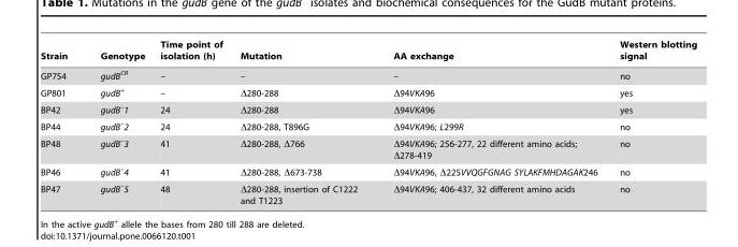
<table><thead><tr><td>Strain</td><td>Genotype</td><td>Time point of isolation (h)</td><td>Mutation</td><td>AA exchange</td><td>Western blotting signal</td></tr></thead><tbody><tr><td>GP754</td><td>gudB<sup>CR</sup></td><td>–</td><td>–</td><td>–</td><td>no</td></tr><tr><td>GP801</td><td>gudB<sup>+</sup></td><td>–</td><td>Δ280-288</td><td>Δ94VKA96</td><td>yes</td></tr><tr><td>BP42</td><td>gudB<sup>–</sup>1</td><td>24</td><td>Δ280-288</td><td>Δ94VKA96</td><td>yes</td></tr><tr><td>BP44</td><td>gudB<sup>–</sup>2</td><td>24</td><td>Δ280-288, T896G</td><td>Δ94VKA96; L299R</td><td>no</td></tr><tr><td>BP48</td><td>gudB<sup>–</sup>3</td><td>41</td><td>Δ280-288, Δ766</td><td>Δ94VKA96; 256-277, 22 different amino acids; Δ278-419</td><td>no</td></tr><tr><td>BP46</td><td>gudB<sup>–</sup>4</td><td>41</td><td>Δ280-288, Δ673-738</td><td>Δ94VKA96, Δ225VVQGFGNAG SYLAKFMHDAGAK246</td><td>no</td></tr><tr><td>BP47</td><td>gudB<sup>–</sup>5</td><td>48</td><td>Δ280-288, insertion of C1222 and T1223</td><td>Δ94VKA96; 406-437, 32 different amino acids</td><td>no</td></tr></tbody></table>